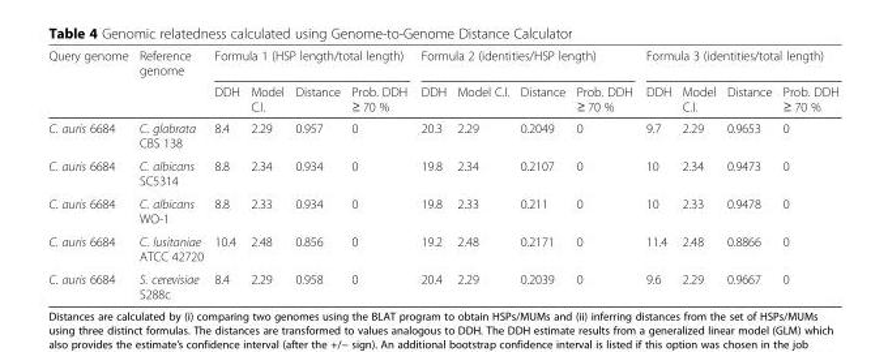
<table><thead><tr><td rowspan="2">Query genome</td><td rowspan="2">Reference genome</td><td colspan="4">Formula 1 (HSP length/total length)</td><td colspan="4">Formula 2 (identities/HSP length)</td><td colspan="4">Formula 3 (identities/total length)</td></tr><tr><td>DDH</td><td>Model C.I.</td><td>Distance</td><td>Prob. DDH ≥ 70 %</td><td>DDH</td><td>Model C.I.</td><td>Distance</td><td>Prob. DDH ≥ 70 %</td><td>DDH</td><td>Model C.I.</td><td>Distance</td><td>Prob. DDH ≥ 70 %</td></tr></thead><tbody><tr><td>C. auris 6684</td><td>C. glabrata CBS 138</td><td>8.4</td><td>2.29</td><td>0.957</td><td>0</td><td>20.3</td><td>2.29</td><td>0.2049</td><td>0</td><td>9.7</td><td>2.29</td><td>0.9653</td><td>0</td></tr><tr><td>C. auris 6684</td><td>C. albicans SC5314</td><td>8.8</td><td>2.34</td><td>0.934</td><td>0</td><td>19.8</td><td>2.34</td><td>0.2107</td><td>0</td><td>10</td><td>2.34</td><td>0.9473</td><td>0</td></tr><tr><td>C. auris 6684</td><td>C. albicans WO-1</td><td>8.8</td><td>2.33</td><td>0.934</td><td>0</td><td>19.8</td><td>2.33</td><td>0.211</td><td>0</td><td>10</td><td>2.33</td><td>0.9478</td><td>0</td></tr><tr><td>C. auris 6684</td><td>C. lusitaniae ATCC 42720</td><td>10.4</td><td>2.48</td><td>0.856</td><td>0</td><td>19.2</td><td>2.48</td><td>0.2171</td><td>0</td><td>11.4</td><td>2.48</td><td>0.8866</td><td>0</td></tr><tr><td>C. auris 6684</td><td>S. cerevisiae S288c</td><td>8.4</td><td>2.29</td><td>0.958</td><td>0</td><td>20.4</td><td>2.29</td><td>0.2039</td><td>0</td><td>9.6</td><td>2.29</td><td>0.9667</td><td>0</td></tr></tbody></table>